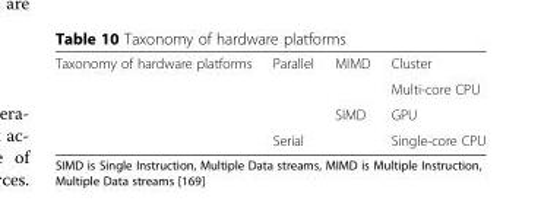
<table><tbody><tr><td rowspan="4">Taxonomy of hardware platforms</td><td>Parallel</td><td>MIMD</td><td>Cluster</td></tr><tr><td></td><td></td><td>Multi-core CPU</td></tr><tr><td></td><td>SIMD</td><td>GPU</td></tr><tr><td colspan="2">Serial</td><td>Single-core CPU</td></tr></tbody></table>